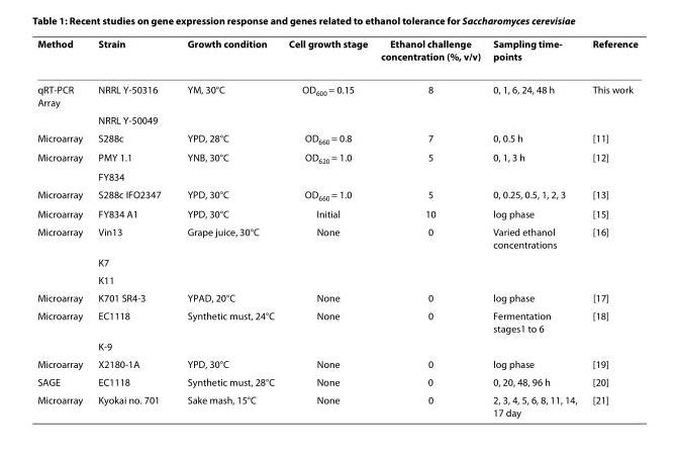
<table><thead><tr><td>Method</td><td>Strain</td><td>Growth condition</td><td>Cell growth stage</td><td>Ethanol challenge concentration (%, v/v)</td><td>Sampling time- points</td><td>Reference</td></tr></thead><tbody><tr><td rowspan="2">qRT-PCR Array</td><td>NRRL Y-50316</td><td>YM, 30°C</td><td>OD<sub>600</sub> = 0.15</td><td>8</td><td>0, 1, 6, 24, 48 h</td><td>This work</td></tr><tr><td>NRRL Y-50049</td><td></td><td></td><td></td><td></td><td></td></tr><tr><td>Microarray</td><td>S288c</td><td>YPD, 28°C</td><td>OD<sub>660</sub> = 0.8</td><td>7</td><td>0, 0.5 h</td><td>[11]</td></tr><tr><td rowspan="2">Microarray</td><td>PMY 1.1</td><td>YNB, 30°C</td><td>OD<sub>620</sub> = 1.0</td><td>5</td><td>0, 1, 3 h</td><td>[12]</td></tr><tr><td>FY834</td><td></td><td></td><td></td><td></td><td></td></tr><tr><td>Microarray</td><td>S288c IFO2347</td><td>YPD, 30°C</td><td>OD<sub>660</sub> = 1.0</td><td>5</td><td>0, 0.25, 0.5, 1, 2, 3</td><td>[13]</td></tr><tr><td>Microarray</td><td>FY834 A1</td><td>YPD, 30°C</td><td>Initial</td><td>10</td><td>log phase</td><td>[15]</td></tr><tr><td rowspan="3">Microarray</td><td>Vin13</td><td>Grape juice, 30°C</td><td>None</td><td>0</td><td>Varied ethanol concentrations</td><td>[16]</td></tr><tr><td>K7</td><td></td><td></td><td></td><td></td><td></td></tr><tr><td>K11</td><td></td><td></td><td></td><td></td><td></td></tr><tr><td>Microarray</td><td>K701 SR4-3</td><td>YPAD, 20°C</td><td>None</td><td>0</td><td>log phase</td><td>[17]</td></tr><tr><td rowspan="2">Microarray</td><td>EC1118</td><td>Synthetic must, 24°C</td><td>None</td><td>0</td><td>Fermentation stages1 to 6</td><td>[18]</td></tr><tr><td>K-9</td><td></td><td></td><td></td><td></td><td></td></tr><tr><td>Microarray</td><td>X2180-1A</td><td>YPD, 30°C</td><td>None</td><td>0</td><td>log phase</td><td>[19]</td></tr><tr><td>SAGE</td><td>EC1118</td><td>Synthetic must, 28°C</td><td>None</td><td>0</td><td>0, 20, 48, 96 h</td><td>[20]</td></tr><tr><td>Microarray</td><td>Kyokai no. 701</td><td>Sake mash, 15°C</td><td>None</td><td>0</td><td>2, 3, 4, 5, 6, 8, 11, 14, 17 day</td><td>[21]</td></tr></tbody></table>